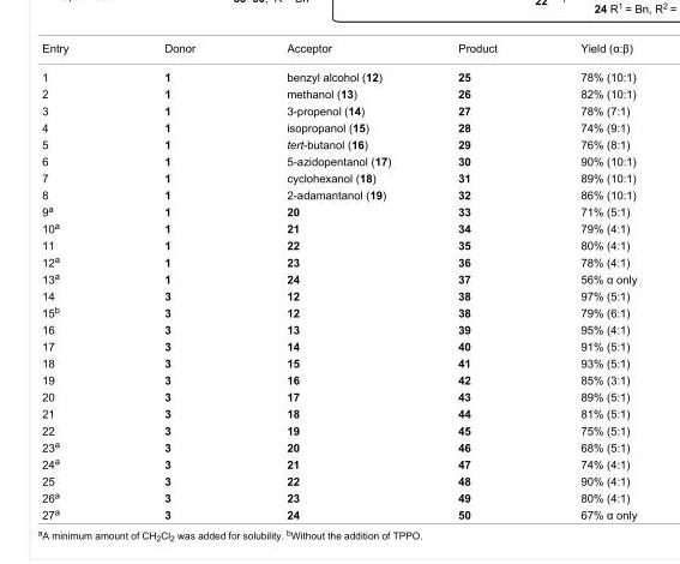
<table><tbody><tr><td>Entry</td><td>Donor</td><td>Acceptor</td><td>Product</td><td>Yield (α:β)</td></tr><tr><td>1</td><td>1</td><td>benzyl alcohol (12)</td><td>25</td><td>78% (10:1)</td></tr><tr><td>2</td><td>1</td><td>methanol (13)</td><td>26</td><td>82% (10:1)</td></tr><tr><td>3</td><td>1</td><td>3-propenol (14)</td><td>27</td><td>78% (7:1)</td></tr><tr><td>4</td><td>1</td><td>isopropanol (15)</td><td>28</td><td>74% (9:1)</td></tr><tr><td>5</td><td>1</td><td>tert-butanol (16)</td><td>29</td><td>76% (8:1)</td></tr><tr><td>6</td><td>1</td><td>5-azidopentanol (17)</td><td>30</td><td>90% (10:1)</td></tr><tr><td>7</td><td>1</td><td>cyclohexanol (18)</td><td>31</td><td>89% (10:1)</td></tr><tr><td>8</td><td>1</td><td>2-adamantanol (19)</td><td>32</td><td>86% (10:1)</td></tr><tr><td>9<sup>a</sup></td><td>1</td><td>20</td><td>33</td><td>71% (5:1)</td></tr><tr><td>10<sup>a</sup></td><td>1</td><td>21</td><td>34</td><td>79% (4:1)</td></tr><tr><td>11</td><td>1</td><td>22</td><td>35</td><td>80% (4:1)</td></tr><tr><td>12<sup>a</sup></td><td>1</td><td>23</td><td>36</td><td>78% (4:1)</td></tr><tr><td>13<sup>a</sup></td><td>1</td><td>24</td><td>37</td><td>56% α only</td></tr><tr><td>14</td><td>3</td><td>12</td><td>38</td><td>97% (5:1)</td></tr><tr><td>15<sup>b</sup></td><td>3</td><td>12</td><td>38</td><td>79% (6:1)</td></tr><tr><td>16</td><td>3</td><td>13</td><td>39</td><td>95% (4:1)</td></tr><tr><td>17</td><td>3</td><td>14</td><td>40</td><td>91% (5:1)</td></tr><tr><td>18</td><td>3</td><td>15</td><td>41</td><td>93% (5:1)</td></tr><tr><td>19</td><td>3</td><td>16</td><td>42</td><td>85% (3:1)</td></tr><tr><td>20</td><td>3</td><td>17</td><td>43</td><td>89% (5:1)</td></tr><tr><td>21</td><td>3</td><td>18</td><td>44</td><td>81% (5:1)</td></tr><tr><td>22</td><td>3</td><td>19</td><td>45</td><td>75% (5:1)</td></tr><tr><td>23<sup>a</sup></td><td>3</td><td>20</td><td>46</td><td>68% (5:1)</td></tr><tr><td>24<sup>a</sup></td><td>3</td><td>21</td><td>47</td><td>74% (4:1)</td></tr><tr><td>25</td><td>3</td><td>22</td><td>48</td><td>90% (4:1)</td></tr><tr><td>26<sup>a</sup></td><td>3</td><td>23</td><td>49</td><td>80% (4:1)</td></tr><tr><td>27<sup>a</sup></td><td>3</td><td>24</td><td>50</td><td>67% α only</td></tr></tbody></table>